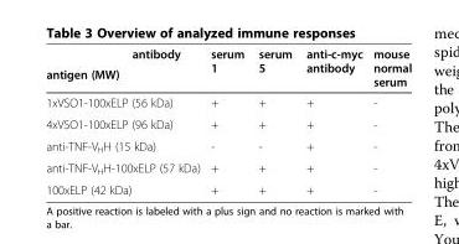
<table><thead><tr><td rowspan="2">antibody antigen (MW)</td><td rowspan="2">serum 1</td><td rowspan="2">serum 5</td><td rowspan="2">anti-c-myc antibody</td><td rowspan="2">mouse normal serum</td></tr><tr></tr></thead><tbody><tr><td>1xVSO1-100xELP (56 kDa)</td><td>+</td><td>+</td><td>+</td><td>-</td></tr><tr><td>4xVSO1-100xELP (96 kDa)</td><td>+</td><td>+</td><td>+</td><td>-</td></tr><tr><td>anti-TNF-V<sub>H</sub>H (15 kDa)</td><td>-</td><td>-</td><td>+</td><td>-</td></tr><tr><td>anti-TNF-V<sub>H</sub>H-100xELP (57 kDa)</td><td>+</td><td>+</td><td>+</td><td>-</td></tr><tr><td>100xELP (42 kDa)</td><td>+</td><td>+</td><td>+</td><td>-</td></tr></tbody></table>